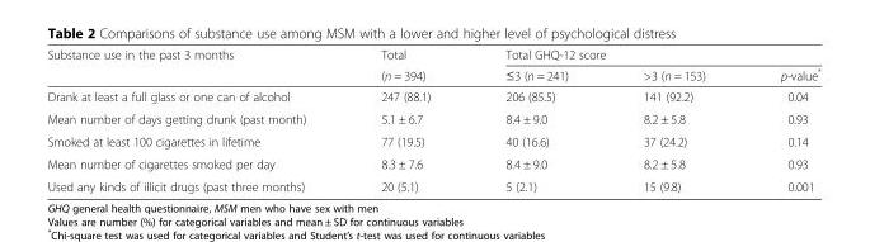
<table><thead><tr><td rowspan="2">Substance use in the past 3 months</td><td rowspan="2">Total (n = 394)</td><td colspan="3">Total GHQ-12 score</td></tr><tr><td>≤3 (n = 241)</td><td>&gt;3 (n = 153)</td><td>p-value*</td></tr></thead><tbody><tr><td>Drank at least a full glass or one can of alcohol</td><td>247 (88.1)</td><td>206 (85.5)</td><td>141 (92.2)</td><td>0.04</td></tr><tr><td>Mean number of days getting drunk (past month)</td><td>5.1 ± 6.7</td><td>8.4 ± 9.0</td><td>8.2 ± 5.8</td><td>0.93</td></tr><tr><td>Smoked at least 100 cigarettes in lifetime</td><td>77 (19.5)</td><td>40 (16.6)</td><td>37 (24.2)</td><td>0.14</td></tr><tr><td>Mean number of cigarettes smoked per day</td><td>8.3 ± 7.6</td><td>8.4 ± 9.0</td><td>8.2 ± 5.8</td><td>0.93</td></tr><tr><td>Used any kinds of illicit drugs (past three months)</td><td>20 (5.1)</td><td>5 (2.1)</td><td>15 (9.8)</td><td>0.001</td></tr></tbody></table>